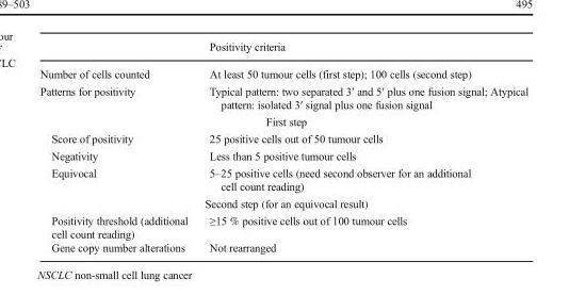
<table><thead><tr><td></td><td>Positivity criteria</td></tr></thead><tbody><tr><td>Number of cells counted</td><td>At least 50 tumour cells (first step); 100 cells (second step)</td></tr><tr><td>Patterns for positivity</td><td>Typical pattern: two separated 3′ and 5′ plus one fusion signal; Atypical pattern: isolated 3′ signal plus one fusion signal</td></tr><tr><td colspan="2">First step</td></tr><tr><td>Score of positivity</td><td>25 positive cells out of 50 tumour cells</td></tr><tr><td>Negativity</td><td>Less than 5 positive tumour cells</td></tr><tr><td>Equivocal</td><td>5–25 positive cells (need second observer for an additional cell count reading)</td></tr><tr><td colspan="2">Second step (for an equivocal result)</td></tr><tr><td>Positivity threshold (additional cell count reading)</td><td>≥15 % positive cells out of 100 tumour cells</td></tr><tr><td>Gene copy number alterations</td><td>Not rearranged</td></tr></tbody></table>